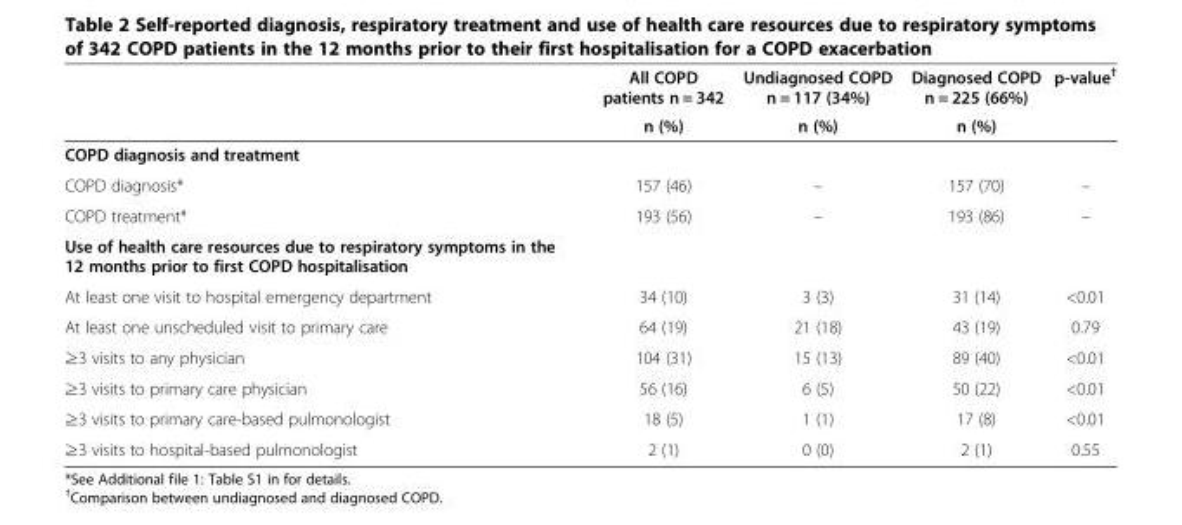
<table><thead><tr><td rowspan="2"></td><td rowspan="2">All COPD patients n = 342 n (%)</td><td rowspan="2">Undiagnosed COPD n = 117 (34%) n (%)</td><td rowspan="2">Diagnosed COPD n = 225 (66%) n (%)</td><td rowspan="2">p-value<sup>†</sup></td></tr><tr></tr></thead><tbody><tr><td colspan="5">COPD diagnosis and treatment</td></tr><tr><td>COPD diagnosis*</td><td>157 (46)</td><td>–</td><td>157 (70)</td><td>–</td></tr><tr><td>COPD treatment*</td><td>193 (56)</td><td>–</td><td>193 (86)</td><td>–</td></tr><tr><td colspan="5">Use of health care resources due to respiratory symptoms in the 12 months prior to first COPD hospitalisation</td></tr><tr><td>At least one visit to hospital emergency department</td><td>34 (10)</td><td>3 (3)</td><td>31 (14)</td><td>&lt;0.01</td></tr><tr><td>At least one unscheduled visit to primary care</td><td>64 (19)</td><td>21 (18)</td><td>43 (19)</td><td>0.79</td></tr><tr><td>≥3 visits to any physician</td><td>104 (31)</td><td>15 (13)</td><td>89 (40)</td><td>&lt;0.01</td></tr><tr><td>≥3 visits to primary care physician</td><td>56 (16)</td><td>6 (5)</td><td>50 (22)</td><td>&lt;0.01</td></tr><tr><td>≥3 visits to primary care-based pulmonologist</td><td>18 (5)</td><td>1 (1)</td><td>17 (8)</td><td>&lt;0.01</td></tr><tr><td>≥3 visits to hospital-based pulmonologist</td><td>2 (1)</td><td>0 (0)</td><td>2 (1)</td><td>0.55</td></tr></tbody></table>